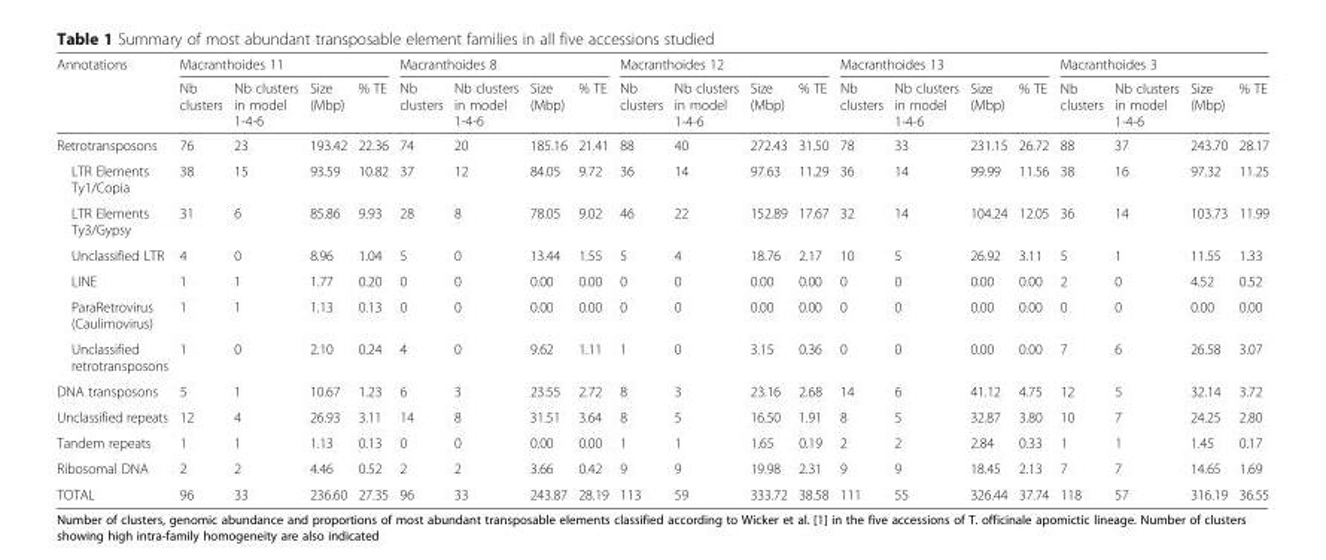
<table><thead><tr><td rowspan="2">Annotations</td><td colspan="4">Macranthoides 11</td><td colspan="4">Macranthoides 8</td><td colspan="4">Macranthoides 12</td><td colspan="4">Macranthoides 13</td><td colspan="4">Macranthoides 3</td></tr><tr><td>Nb clusters</td><td>Nb clusters in model 1-4-6</td><td>Size (Mbp)</td><td>% TE</td><td>Nb clusters</td><td>Nb clusters in model 1-4-6</td><td>Size (Mbp)</td><td>% TE</td><td>Nb clusters</td><td>Nb clusters in model 1-4-6</td><td>Size (Mbp)</td><td>% TE</td><td>Nb clusters</td><td>Nb clusters in model 1-4-6</td><td>Size (Mbp)</td><td>% TE</td><td>Nb clusters</td><td>Nb clusters in model 1-4-6</td><td>Size (Mbp)</td><td>% TE</td></tr></thead><tbody><tr><td>Retrotransposons</td><td>76</td><td>23</td><td>193.42</td><td>22.36</td><td>74</td><td>20</td><td>185.16</td><td>21.41</td><td>88</td><td>40</td><td>272.43</td><td>31.50</td><td>78</td><td>33</td><td>231.15</td><td>26.72</td><td>88</td><td>37</td><td>243.70</td><td>28.17</td></tr><tr><td>LTR Elements Ty1/Copia</td><td>38</td><td>15</td><td>93.59</td><td>10.82</td><td>37</td><td>12</td><td>84.05</td><td>9.72</td><td>36</td><td>14</td><td>97.63</td><td>11.29</td><td>36</td><td>14</td><td>99.99</td><td>11.56</td><td>38</td><td>16</td><td>97.32</td><td>11.25</td></tr><tr><td>LTR Elements Ty3/Gypsy</td><td>31</td><td>6</td><td>85.86</td><td>9.93</td><td>28</td><td>8</td><td>78.05</td><td>9.02</td><td>46</td><td>22</td><td>152.89</td><td>17.67</td><td>32</td><td>14</td><td>104.24</td><td>12.05</td><td>36</td><td>14</td><td>103.73</td><td>11.99</td></tr><tr><td>Unclassified LTR</td><td>4</td><td>0</td><td>8.96</td><td>1.04</td><td>5</td><td>0</td><td>13.44</td><td>1.55</td><td>5</td><td>4</td><td>18.76</td><td>2.17</td><td>10</td><td>5</td><td>26.92</td><td>3.11</td><td>5</td><td>1</td><td>11.55</td><td>1.33</td></tr><tr><td>LINE</td><td>1</td><td>1</td><td>1.77</td><td>0.20</td><td>0</td><td>0</td><td>0.00</td><td>0.00</td><td>0</td><td>0</td><td>0.00</td><td>0.00</td><td>0</td><td>0</td><td>0.00</td><td>0.00</td><td>2</td><td>0</td><td>4.52</td><td>0.52</td></tr><tr><td>ParaRetrovirus (Caulimovirus)</td><td>1</td><td>1</td><td>1.13</td><td>0.13</td><td>0</td><td>0</td><td>0.00</td><td>0.00</td><td>0</td><td>0</td><td>0.00</td><td>0.00</td><td>0</td><td>0</td><td>0.00</td><td>0.00</td><td>0</td><td>0</td><td>0.00</td><td>0.00</td></tr><tr><td>Unclassified retrotransposons</td><td>1</td><td>0</td><td>2.10</td><td>0.24</td><td>4</td><td>0</td><td>9.62</td><td>1.11</td><td>1</td><td>0</td><td>3.15</td><td>0.36</td><td>0</td><td>0</td><td>0.00</td><td>0.00</td><td>7</td><td>6</td><td>26.58</td><td>3.07</td></tr><tr><td>DNA transposons</td><td>5</td><td>1</td><td>10.67</td><td>1.23</td><td>6</td><td>3</td><td>23.55</td><td>2.72</td><td>8</td><td>3</td><td>23.16</td><td>2.68</td><td>14</td><td>6</td><td>41.12</td><td>4.75</td><td>12</td><td>5</td><td>32.14</td><td>3.72</td></tr><tr><td>Unclassified repeats</td><td>12</td><td>4</td><td>26.93</td><td>3.11</td><td>14</td><td>8</td><td>31.51</td><td>3.64</td><td>8</td><td>5</td><td>16.50</td><td>1.91</td><td>8</td><td>5</td><td>32.87</td><td>3.80</td><td>10</td><td>7</td><td>24.25</td><td>2.80</td></tr><tr><td>Tandem repeats</td><td>1</td><td>1</td><td>1.13</td><td>0.13</td><td>0</td><td>0</td><td>0.00</td><td>0.00</td><td>1</td><td>1</td><td>1.65</td><td>0.19</td><td>2</td><td>2</td><td>2.84</td><td>0.33</td><td>1</td><td>1</td><td>1.45</td><td>0.17</td></tr><tr><td>Ribosomal DNA</td><td>2</td><td>2</td><td>4.46</td><td>0.52</td><td>2</td><td>2</td><td>3.66</td><td>0.42</td><td>9</td><td>9</td><td>19.98</td><td>2.31</td><td>9</td><td>9</td><td>18.45</td><td>2.13</td><td>7</td><td>7</td><td>14.65</td><td>1.69</td></tr><tr><td>TOTAL</td><td>96</td><td>33</td><td>236.60</td><td>27.35</td><td>96</td><td>33</td><td>243.87</td><td>28.19</td><td>113</td><td>59</td><td>333.72</td><td>38.58</td><td>111</td><td>55</td><td>326.44</td><td>37.74</td><td>118</td><td>57</td><td>316.19</td><td>36.55</td></tr></tbody></table>